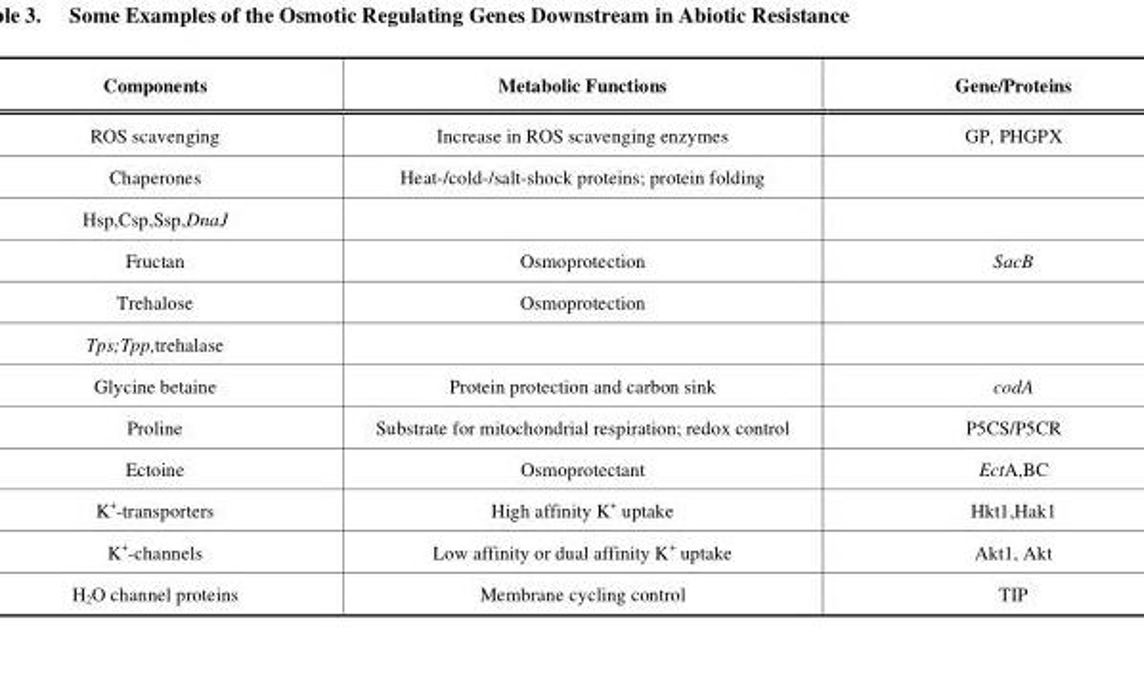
<table><thead><tr><td>Components</td><td>Metabolic Functions</td><td>Gene/Proteins</td></tr></thead><tbody><tr><td>ROS scavenging</td><td>Increase in ROS scavenging enzymes</td><td>GP, PHGPX</td></tr><tr><td>Chaperones</td><td>Heat-/cold-/salt-shock proteins; protein folding</td><td></td></tr><tr><td colspan="3">Hsp,Csp,Ssp,DnaJ</td></tr><tr><td>Fructan</td><td>Osmoprotection</td><td>SacB</td></tr><tr><td>Trehalose</td><td>Osmoprotection</td><td></td></tr><tr><td colspan="3">Tps;Tpp,trehalase</td></tr><tr><td>Glycine betaine</td><td>Protein protection and carbon sink</td><td>codA</td></tr><tr><td>Proline</td><td>Substrate for mitochondrial respiration; redox control</td><td>P5CS/P5CR</td></tr><tr><td>Ectoine</td><td>Osmoprotectant</td><td>EctA,BC</td></tr><tr><td>K<sup>+</sup>-transporters</td><td>High affinity K<sup>+</sup> uptake</td><td>Hkt1,Hak1</td></tr><tr><td>K<sup>+</sup>-channels</td><td>Low affinity or dual affinity K<sup>+</sup> uptake</td><td>Akt1, Akt</td></tr><tr><td>H<sub>2</sub>O channel proteins</td><td>Membrane cycling control</td><td>TIP</td></tr></tbody></table>